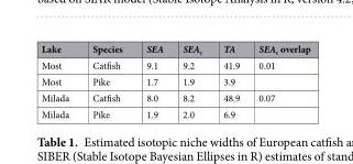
<table><thead><tr><td>Lake</td><td>Species</td><td>SEA</td><td>SEA<sub>c</sub></td><td>TA</td><td>SEA<sub>c</sub> overlap</td></tr></thead><tbody><tr><td>Most</td><td>Catfish</td><td>9.1</td><td>9.2</td><td>41.9</td><td>0.01</td></tr><tr><td>Most</td><td>Pike</td><td>1.7</td><td>1.9</td><td>3.9</td><td></td></tr><tr><td>Milada</td><td>Catfish</td><td>8.0</td><td>8.2</td><td>48.9</td><td>0.07</td></tr><tr><td>Milada</td><td>Pike</td><td>1.9</td><td>2.0</td><td>6.9</td><td></td></tr></tbody></table>